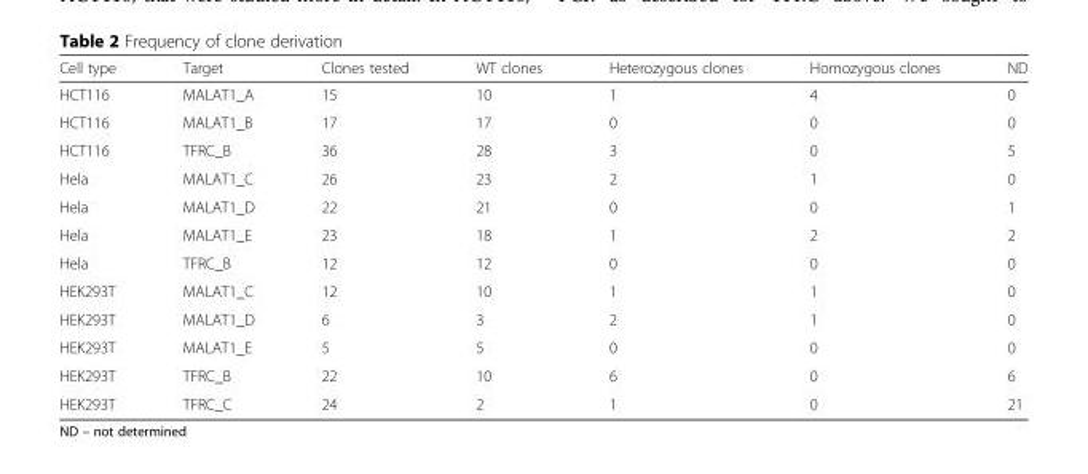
<table><thead><tr><td>Cell type</td><td>Target</td><td>Clones tested</td><td>WT clones</td><td>Heterozygous clones</td><td>Homozygous clones</td><td>ND</td></tr></thead><tbody><tr><td>HCT116</td><td>MALAT1_A</td><td>15</td><td>10</td><td>1</td><td>4</td><td>0</td></tr><tr><td>HCT116</td><td>MALAT1_B</td><td>17</td><td>17</td><td>0</td><td>0</td><td>0</td></tr><tr><td>HCT116</td><td>TFRC_B</td><td>36</td><td>28</td><td>3</td><td>0</td><td>5</td></tr><tr><td>Hela</td><td>MALAT1_C</td><td>26</td><td>23</td><td>2</td><td>1</td><td>0</td></tr><tr><td>Hela</td><td>MALAT1_D</td><td>22</td><td>21</td><td>0</td><td>0</td><td>1</td></tr><tr><td>Hela</td><td>MALAT1_E</td><td>23</td><td>18</td><td>1</td><td>2</td><td>2</td></tr><tr><td>Hela</td><td>TFRC_B</td><td>12</td><td>12</td><td>0</td><td>0</td><td>0</td></tr><tr><td>HEK293T</td><td>MALAT1_C</td><td>12</td><td>10</td><td>1</td><td>1</td><td>0</td></tr><tr><td>HEK293T</td><td>MALAT1_D</td><td>6</td><td>3</td><td>2</td><td>1</td><td>0</td></tr><tr><td>HEK293T</td><td>MALAT1_E</td><td>5</td><td>5</td><td>0</td><td>0</td><td>0</td></tr><tr><td>HEK293T</td><td>TFRC_B</td><td>22</td><td>10</td><td>6</td><td>0</td><td>6</td></tr><tr><td>HEK293T</td><td>TFRC_C</td><td>24</td><td>2</td><td>1</td><td>0</td><td>21</td></tr></tbody></table>